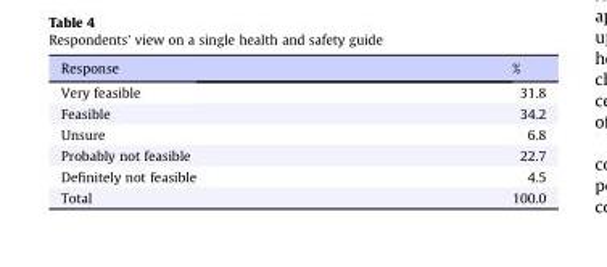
<table><thead><tr><td>Response</td><td>%</td></tr></thead><tbody><tr><td>Very feasible</td><td>31.8</td></tr><tr><td>Feasible</td><td>34.2</td></tr><tr><td>Unsure</td><td>6.8</td></tr><tr><td>Probably not feasible</td><td>22.7</td></tr><tr><td>Definitely not feasible</td><td>4.5</td></tr><tr><td>Total</td><td>100.0</td></tr></tbody></table>